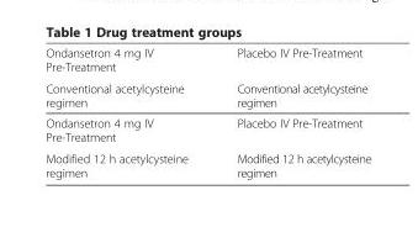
<table><tbody><tr><td>Ondansetron 4 mg IV Pre-Treatment</td><td>Placebo IV Pre-Treatment</td></tr><tr><td>Conventional acetylcysteine regimen</td><td>Conventional acetylcysteine regimen</td></tr><tr><td>Ondansetron 4 mg IV Pre-Treatment</td><td>Placebo IV Pre-Treatment</td></tr><tr><td>Modified 12 h acetylcysteine regimen</td><td>Modified 12 h acetylcysteine regimen</td></tr></tbody></table>